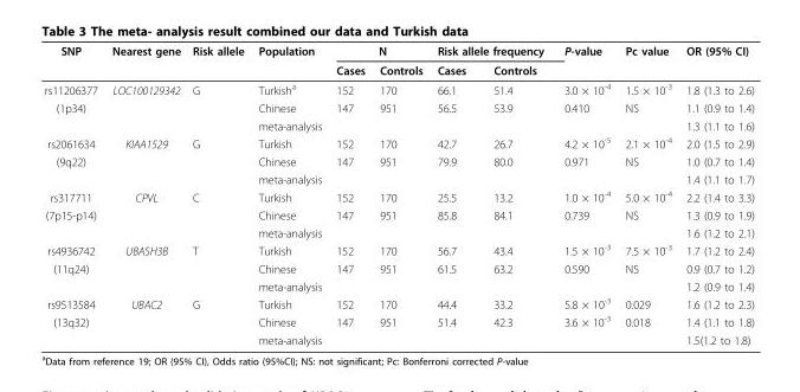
<table><thead><tr><td rowspan="2">SNP</td><td rowspan="2">Nearest gene</td><td rowspan="2">Risk allele</td><td rowspan="2">Population</td><td colspan="2">N</td><td colspan="2">Risk allele frequency</td><td rowspan="2">P-value</td><td rowspan="2">Pc value</td><td rowspan="2">OR (95% CI)</td></tr><tr><td>Cases</td><td>Controls</td><td>Cases</td><td>Controls</td></tr></thead><tbody><tr><td>rs11206377</td><td>LOC100129342</td><td>G</td><td>Turkish<sup>a</sup></td><td>152</td><td>170</td><td>66.1</td><td>51.4</td><td>3.0 × 10<sup>-4</sup></td><td>1.5 × 10<sup>-3</sup></td><td>1.8 (1.3 to 2.6)</td></tr><tr><td rowspan="2">(1p34)</td><td></td><td></td><td>Chinese</td><td>147</td><td>951</td><td>56.5</td><td>53.9</td><td>0.410</td><td>NS</td><td>1.1 (0.9 to 1.4)</td></tr><tr><td></td><td></td><td>meta-analysis</td><td></td><td></td><td></td><td></td><td></td><td></td><td>1.3 (1.1 to 1.6)</td></tr><tr><td>rs2061634</td><td>KIAA1529</td><td>G</td><td>Turkish</td><td>152</td><td>170</td><td>42.7</td><td>26.7</td><td>4.2 × 10<sup>-5</sup></td><td>2.1 × 10<sup>-4</sup></td><td>2.0 (1.5 to 2.9)</td></tr><tr><td rowspan="2">(9q22)</td><td></td><td></td><td>Chinese</td><td>147</td><td>951</td><td>79.9</td><td>80.0</td><td>0.971</td><td>NS</td><td>1.0 (0.7 to 1.4)</td></tr><tr><td></td><td></td><td>meta-analysis</td><td></td><td></td><td></td><td></td><td></td><td></td><td>1.4 (1.1 to 1.7)</td></tr><tr><td>rs317711</td><td>CPVL</td><td>C</td><td>Turkish</td><td>152</td><td>170</td><td>25.5</td><td>13.2</td><td>1.0 × 10<sup>-4</sup></td><td>5.0 × 10<sup>-4</sup></td><td>2.2 (1.4 to 3.3)</td></tr><tr><td rowspan="2">(7p15-p14)</td><td></td><td></td><td>Chinese</td><td>147</td><td>951</td><td>85.8</td><td>84.1</td><td>0.739</td><td>NS</td><td>1.3 (0.9 to 1.9)</td></tr><tr><td></td><td></td><td>meta-analysis</td><td></td><td></td><td></td><td></td><td></td><td></td><td>1.6 (1.2 to 2.1)</td></tr><tr><td>rs4936742</td><td>UBASH3B</td><td>T</td><td>Turkish</td><td>152</td><td>170</td><td>56.7</td><td>43.4</td><td>1.5 × 10<sup>-3</sup></td><td>7.5 × 10<sup>-3</sup></td><td>1.7 (1.2 to 2.4)</td></tr><tr><td rowspan="2">(11q24)</td><td></td><td></td><td>Chinese</td><td>147</td><td>951</td><td>61.5</td><td>63.2</td><td>0.590</td><td>NS</td><td>0.9 (0.7 to 1.2)</td></tr><tr><td></td><td></td><td>meta-analysis</td><td></td><td></td><td></td><td></td><td></td><td></td><td>1.2 (0.9 to 1.4)</td></tr><tr><td>rs9513584</td><td>UBAC2</td><td>G</td><td>Turkish</td><td>152</td><td>170</td><td>44.4</td><td>33.2</td><td>5.8 × 10<sup>-3</sup></td><td>0.029</td><td>1.6 (1.2 to 2.3)</td></tr><tr><td rowspan="2">(13q32)</td><td></td><td></td><td>Chinese</td><td>147</td><td>951</td><td>51.4</td><td>42.3</td><td>3.6 × 10<sup>-3</sup></td><td>0.018</td><td>1.4 (1.1 to 1.8)</td></tr><tr><td></td><td></td><td>meta-analysis</td><td></td><td></td><td></td><td></td><td></td><td></td><td>1.5(1.2 to 1.8)</td></tr></tbody></table>